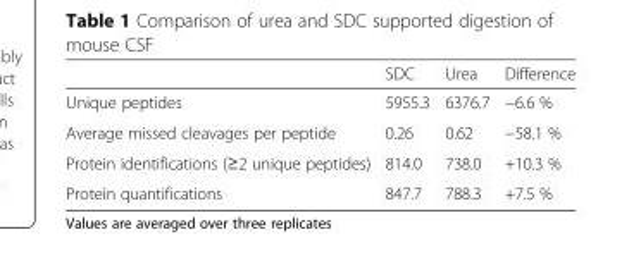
<table><thead><tr><td></td><td>SDC</td><td>Urea</td><td>Difference</td></tr></thead><tbody><tr><td>Unique peptides</td><td>5955.3</td><td>6376.7</td><td>−6.6 %</td></tr><tr><td>Average missed cleavages per peptide</td><td>0.26</td><td>0.62</td><td>−58.1 %</td></tr><tr><td>Protein identifications (≥2 unique peptides)</td><td>814.0</td><td>738.0</td><td>+10.3 %</td></tr><tr><td>Protein quantifications</td><td>847.7</td><td>788.3</td><td>+7.5 %</td></tr></tbody></table>